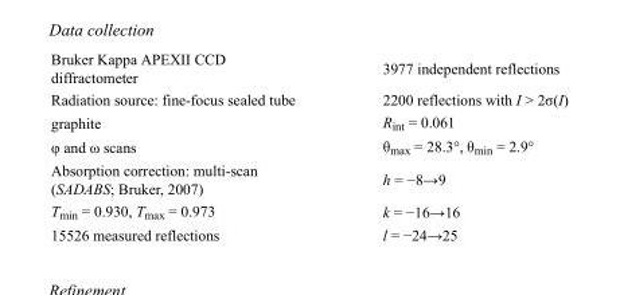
<table><tbody><tr><td>Bruker Kappa APEXII CCD diffractometer</td><td>3977 independent reflections</td></tr><tr><td>Radiation source: fine-focus sealed tube</td><td>2200 reflections with I &gt; 2σ(I)</td></tr><tr><td>graphite</td><td>R<sub>int</sub> = 0.061</td></tr><tr><td>φ and ω scans</td><td>θ<sub>max</sub> = 28.3°, θ<sub>min</sub> = 2.9°</td></tr><tr><td>Absorption correction: multi-scan (SADABS; Bruker, 2007)</td><td>h = −8→9</td></tr><tr><td>T<sub>min</sub> = 0.930, T<sub>max</sub> = 0.973</td><td>k = −16→16</td></tr><tr><td>15526 measured reflections</td><td>l = −24→25</td></tr></tbody></table>